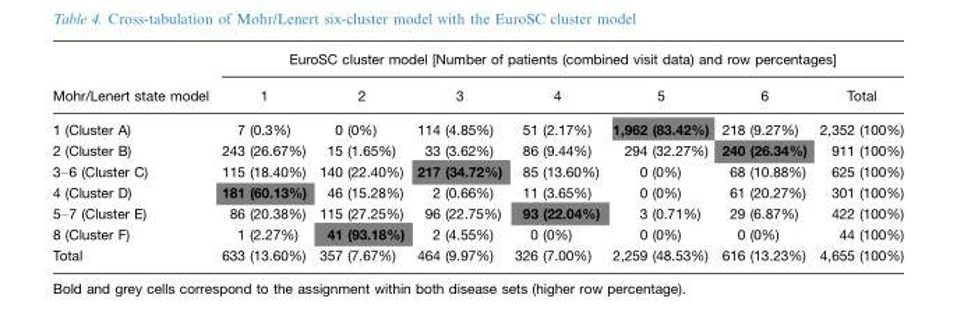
<table><thead><tr><td rowspan="2">Mohr/Lenert state model</td><td colspan="7">EuroSC cluster model [Number of patients (combined visit data) and row percentages]</td></tr><tr><td>1</td><td>2</td><td>3</td><td>4</td><td>5</td><td>6</td><td>Total</td></tr></thead><tbody><tr><td>1 (Cluster A)</td><td>7 (0.3%)</td><td>0 (0%)</td><td>114 (4.85%)</td><td>51 (2.17%)</td><td>1,962 (83.42%)</td><td>218 (9.27%)</td><td>2,352 (100%)</td></tr><tr><td>2 (Cluster B)</td><td>243 (26.67%)</td><td>15 (1.65%)</td><td>33 (3.62%)</td><td>86 (9.44%)</td><td>294 (32.27%)</td><td>240 (26.34%)</td><td>911 (100%)</td></tr><tr><td>3–6 (Cluster C)</td><td>115 (18.40%)</td><td>140 (22.40%)</td><td>217 (34.72%)</td><td>85 (13.60%)</td><td>0 (0%)</td><td>68 (10.88%)</td><td>625 (100%)</td></tr><tr><td>4 (Cluster D)</td><td>181 (60.13%)</td><td>46 (15.28%)</td><td>2 (0.66%)</td><td>11 (3.65%)</td><td>0 (0%)</td><td>61 (20.27%)</td><td>301 (100%)</td></tr><tr><td>5–7 (Cluster E)</td><td>86 (20.38%)</td><td>115 (27.25%)</td><td>96 (22.75%)</td><td>93 (22.04%)</td><td>3 (0.71%)</td><td>29 (6.87%)</td><td>422 (100%)</td></tr><tr><td>8 (Cluster F)</td><td>1 (2.27%)</td><td>41 (93.18%)</td><td>2 (4.55%)</td><td>0 (0%)</td><td>0 (0%)</td><td>0 (0%)</td><td>44 (100%)</td></tr><tr><td>Total</td><td>633 (13.60%)</td><td>357 (7.67%)</td><td>464 (9.97%)</td><td>326 (7.00%)</td><td>2,259 (48.53%)</td><td>616 (13.23%)</td><td>4,655 (100%)</td></tr></tbody></table>